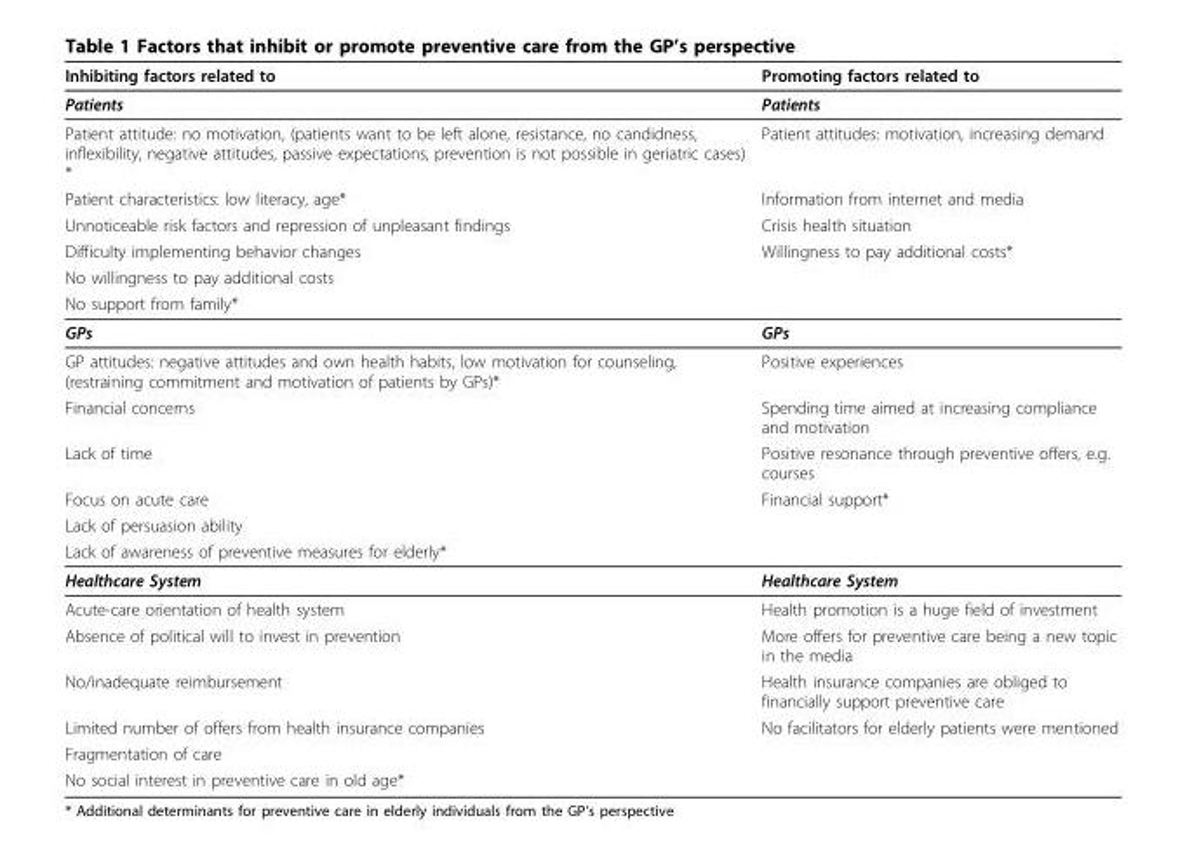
<table><thead><tr><td>Inhibiting factors related to</td><td>Promoting factors related to</td></tr></thead><tbody><tr><td>Patients</td><td>Patients</td></tr><tr><td>Patient attitude: no motivation, (patients want to be left alone, resistance, no candidness, inflexibility, negative attitudes, passive expectations, prevention is not possible in geriatric cases) *</td><td>Patient attitudes: motivation, increasing demand</td></tr><tr><td>Patient characteristics: low literacy, age*</td><td>Information from internet and media</td></tr><tr><td>Unnoticeable risk factors and repression of unpleasant findings</td><td>Crisis health situation</td></tr><tr><td>Difficulty implementing behavior changes</td><td>Willingness to pay additional costs*</td></tr><tr><td colspan="2">No willingness to pay additional costs</td></tr><tr><td colspan="2">No support from family*</td></tr><tr><td>GPs</td><td>GPs</td></tr><tr><td>GP attitudes: negative attitudes and own health habits, low motivation for counseling, (restraining commitment and motivation of patients by GPs)*</td><td>Positive experiences</td></tr><tr><td>Financial concerns</td><td>Spending time aimed at increasing compliance and motivation</td></tr><tr><td>Lack of time</td><td>Positive resonance through preventive offers, e.g. courses</td></tr><tr><td>Focus on acute care</td><td>Financial support*</td></tr><tr><td colspan="2">Lack of persuasion ability</td></tr><tr><td colspan="2">Lack of awareness of preventive measures for elderly*</td></tr><tr><td>Healthcare System</td><td>Healthcare System</td></tr><tr><td>Acute-care orientation of health system</td><td>Health promotion is a huge field of investment</td></tr><tr><td>Absence of political will to invest in prevention</td><td>More offers for preventive care being a new topic in the media</td></tr><tr><td>No/inadequate reimbursement</td><td>Health insurance companies are obliged to financially support preventive care</td></tr><tr><td>Limited number of offers from health insurance companies</td><td>No facilitators for elderly patients were mentioned</td></tr><tr><td colspan="2">Fragmentation of care</td></tr><tr><td>No social interest in preventive care in old age*</td><td></td></tr></tbody></table>